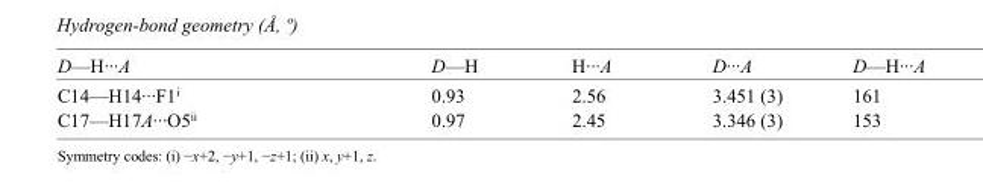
<table><tbody><tr><td>D—H···A</td><td>D—H</td><td>H···A</td><td>D···A</td><td>D—H···A</td></tr><tr><td>C14—H14···F1<sup>i</sup></td><td>0.93</td><td>2.56</td><td>3.451 (3)</td><td>161</td></tr><tr><td>C17—H17A···O5<sup>ii</sup></td><td>0.97</td><td>2.45</td><td>3.346 (3)</td><td>153</td></tr></tbody></table>